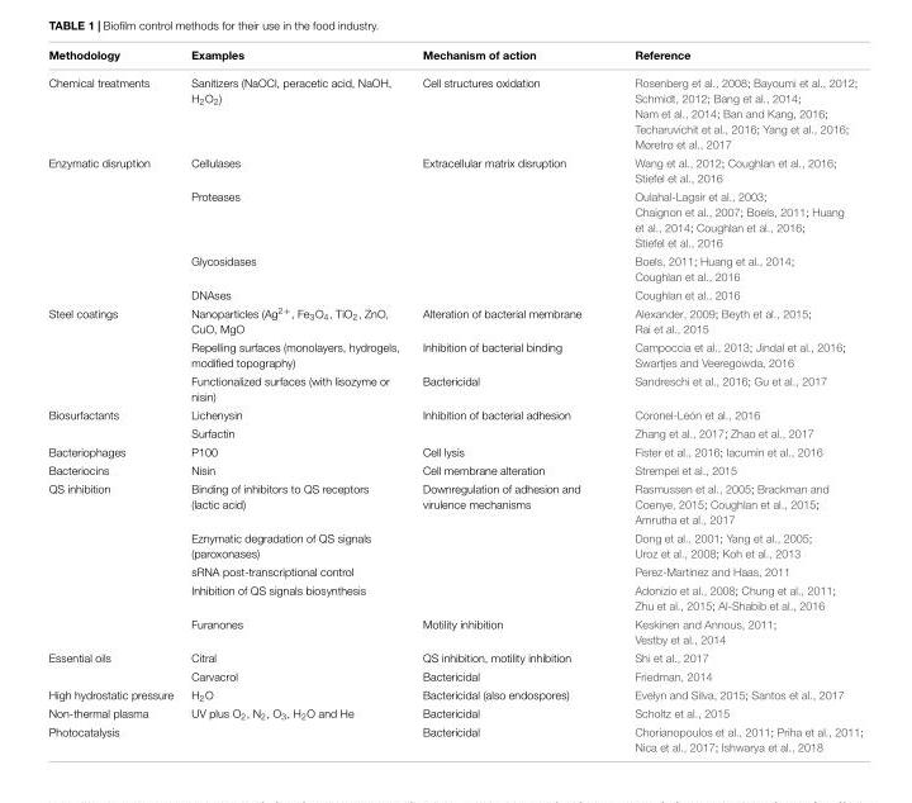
<table><thead><tr><td>Methodology</td><td>Examples</td><td>Mechanism of action</td><td>Reference</td></tr></thead><tbody><tr><td>Chemical treatments</td><td>Sanitizers (NaOCl, peracetic acid, NaOH, H<sub>2</sub>O<sub>2</sub>)</td><td>Cell structures oxidation</td><td>Rosenberg et al., 2008; Bayoumi et al., 2012; Schmidt, 2012; Bang et al., 2014; Nam et al., 2014; Ban and Kang, 2016; Techaruvichit et al., 2016; Yang et al., 2016; Møretrø et al., 2017</td></tr><tr><td rowspan="4">Enzymatic disruption</td><td>Cellulases</td><td>Extracellular matrix disruption</td><td>Wang et al., 2012; Coughlan et al., 2016; Stiefel et al., 2016</td></tr><tr><td>Proteases</td><td></td><td>Oulahal-Lagsir et al., 2003; Chaignon et al., 2007; Boels, 2011; Huang et al., 2014; Coughlan et al., 2016; Stiefel et al., 2016</td></tr><tr><td>Glycosidases</td><td></td><td>Boels, 2011; Huang et al., 2014; Coughlan et al., 2016</td></tr><tr><td>DNAses</td><td></td><td>Coughlan et al., 2016</td></tr><tr><td rowspan="3">Steel coatings</td><td>Nanoparticles (Ag<sup>2+</sup>, Fe<sub>3</sub>O<sub>4</sub>, TiO<sub>2</sub>, ZnO, CuO, MgO</td><td>Alteration of bacterial membrane</td><td>Alexander, 2009; Beyth et al., 2015; Rai et al., 2015</td></tr><tr><td>Repelling surfaces (monolayers, hydrogels, modified topography)</td><td>Inhibition of bacterial binding</td><td>Campoccia et al., 2013; Jindal et al., 2016; Swartjes and Veeregowda, 2016</td></tr><tr><td>Functionalized surfaces (with lisozyme or nisin)</td><td>Bactericidal</td><td>Sandreschi et al., 2016; Gu et al., 2017</td></tr><tr><td rowspan="2">Biosurfactants</td><td>Lichenysin</td><td>Inhibition of bacterial adhesion</td><td>Coronel-León et al., 2016</td></tr><tr><td>Surfactin</td><td></td><td>Zhang et al., 2017; Zhao et al., 2017</td></tr><tr><td>Bacteriophages</td><td>P100</td><td>Cell lysis</td><td>Fister et al., 2016; Iacumin et al., 2016</td></tr><tr><td>Bacteriocins</td><td>Nisin</td><td>Cell membrane alteration</td><td>Strempel et al., 2015</td></tr><tr><td rowspan="5">QS inhibition</td><td>Binding of inhibitors to QS receptors (lactic acid)</td><td>Downregulation of adhesion and virulence mechanisms</td><td>Rasmussen et al., 2005; Brackman and Coenye, 2015; Coughlan et al., 2015; Amrutha et al., 2017</td></tr><tr><td>Eznymatic degradation of QS signals (paroxonases)</td><td></td><td>Dong et al., 2001; Yang et al., 2005; Uroz et al., 2008; Koh et al., 2013</td></tr><tr><td>sRNA post-transcriptional control</td><td></td><td>Perez-Martinez and Haas, 2011</td></tr><tr><td>Inhibition of QS signals biosynthesis</td><td></td><td>Adonizio et al., 2008; Chung et al., 2011; Zhu et al., 2015; Al-Shabib et al., 2016</td></tr><tr><td>Furanones</td><td>Motility inhibition</td><td>Keskinen and Annous, 2011; Vestby et al., 2014</td></tr><tr><td rowspan="2">Essential oils</td><td>Citral</td><td>QS inhibition, motility inhibition</td><td>Shi et al., 2017</td></tr><tr><td>Carvacrol</td><td>Bactericidal</td><td>Friedman, 2014</td></tr><tr><td>High hydrostatic pressure</td><td>H<sub>2</sub>O</td><td>Bactericidal (also endospores)</td><td>Evelyn and Silva, 2015; Santos et al., 2017</td></tr><tr><td>Non-thermal plasma</td><td>UV plus O<sub>2</sub>, N<sub>2</sub>, O<sub>3</sub>, H<sub>2</sub>O and He</td><td>Bactericidal</td><td>Scholtz et al., 2015</td></tr><tr><td>Photocatalysis</td><td></td><td>Bactericidal</td><td>Chorianopoulos et al., 2011; Priha et al., 2011; Nica et al., 2017; Ishwarya et al., 2018</td></tr></tbody></table>